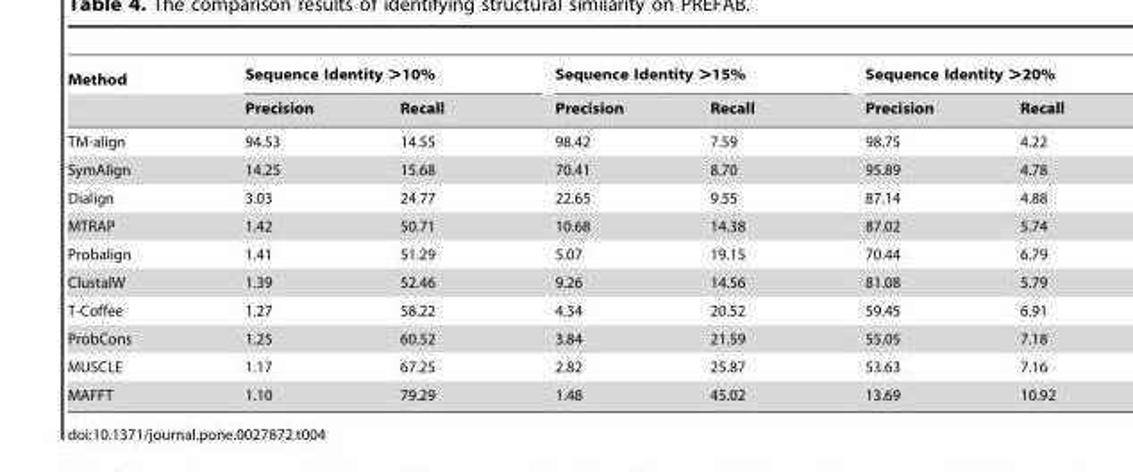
<table><thead><tr><td rowspan="2">Method</td><td colspan="2">Sequence Identity &gt;10%</td><td colspan="2">Sequence Identity &gt;15%</td><td colspan="2">Sequence Identity &gt;20%</td></tr><tr><td>Precision</td><td>Recall</td><td>Precision</td><td>Recall</td><td>Precision</td><td>Recall</td></tr></thead><tbody><tr><td>TM-align</td><td>94.53</td><td>14.55</td><td>98.42</td><td>7.59</td><td>98.75</td><td>4.22</td></tr><tr><td>SymAlign</td><td>14.25</td><td>15.68</td><td>70.41</td><td>8.70</td><td>95.89</td><td>4.78</td></tr><tr><td>Dialign</td><td>3.03</td><td>24.77</td><td>22.65</td><td>9.55</td><td>87.14</td><td>4.88</td></tr><tr><td>MTRAP</td><td>1.42</td><td>50.71</td><td>10.68</td><td>14.38</td><td>87.02</td><td>5.74</td></tr><tr><td>Probalign</td><td>1.41</td><td>51.29</td><td>5.07</td><td>19.15</td><td>70.44</td><td>6.79</td></tr><tr><td>ClustalW</td><td>1.39</td><td>52.46</td><td>9.26</td><td>14.56</td><td>81.08</td><td>5.79</td></tr><tr><td>T-Coffee</td><td>1.27</td><td>58.22</td><td>4.34</td><td>20.52</td><td>59.45</td><td>6.91</td></tr><tr><td>ProbCons</td><td>1.25</td><td>60.52</td><td>3.84</td><td>21.59</td><td>55.05</td><td>7.18</td></tr><tr><td>MUSCLE</td><td>1.17</td><td>67.25</td><td>2.82</td><td>25.87</td><td>53.63</td><td>7.16</td></tr><tr><td>MAFFT</td><td>1.10</td><td>79.29</td><td>1.48</td><td>45.02</td><td>13.69</td><td>10.92</td></tr></tbody></table>